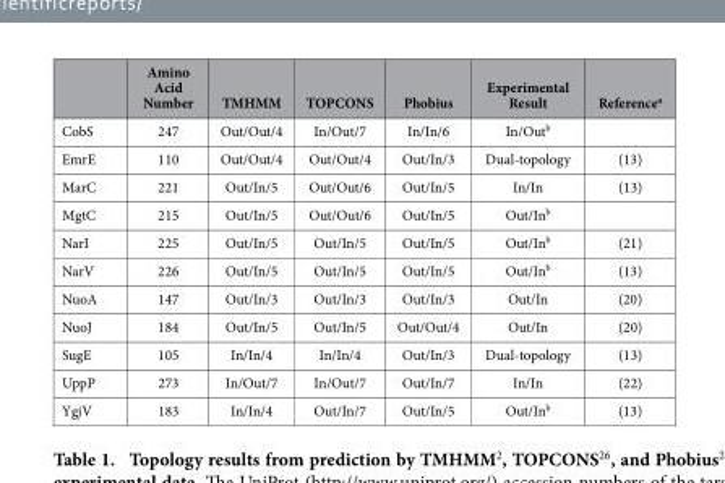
<table><thead><tr><td></td><td>Amino Acid Number</td><td>TMHMM</td><td>TOPCONS</td><td>Phobius</td><td>Experimental Result</td><td>Reference<sup>a</sup></td></tr></thead><tbody><tr><td>CobS</td><td>247</td><td>Out/Out/4</td><td>In/Out/7</td><td>In/In/6</td><td>In/Out<sup>b</sup></td><td></td></tr><tr><td>EmrE</td><td>110</td><td>Out/Out/4</td><td>Out/Out/4</td><td>Out/In/3</td><td>Dual-topology</td><td>(13)</td></tr><tr><td>MarC</td><td>221</td><td>Out/In/5</td><td>Out/Out/6</td><td>Out/In/5</td><td>In/In</td><td>(13)</td></tr><tr><td>MgtC</td><td>215</td><td>Out/In/5</td><td>Out/Out/6</td><td>Out/In/5</td><td>Out/In<sup>b</sup></td><td></td></tr><tr><td>NarI</td><td>225</td><td>Out/In/5</td><td>Out/In/5</td><td>Out/In/5</td><td>Out/In<sup>b</sup></td><td>(21)</td></tr><tr><td>NarV</td><td>226</td><td>Out/In/5</td><td>Out/In/5</td><td>Out/In/5</td><td>Out/In<sup>b</sup></td><td>(13)</td></tr><tr><td>NuoA</td><td>147</td><td>Out/In/3</td><td>Out/In/3</td><td>Out/In/3</td><td>Out/In</td><td>(20)</td></tr><tr><td>NuoJ</td><td>184</td><td>Out/In/5</td><td>Out/In/5</td><td>Out/Out/4</td><td>Out/In</td><td>(20)</td></tr><tr><td>SugE</td><td>105</td><td>In/In/4</td><td>In/In/4</td><td>Out/In/3</td><td>Dual-topology</td><td>(13)</td></tr><tr><td>UppP</td><td>273</td><td>In/Out/7</td><td>In/Out/7</td><td>Out/In/7</td><td>In/In</td><td>(22)</td></tr><tr><td>YgjV</td><td>183</td><td>In/In/4</td><td>Out/In/7</td><td>Out/In/5</td><td>Out/In<sup>b</sup></td><td>(13)</td></tr></tbody></table>